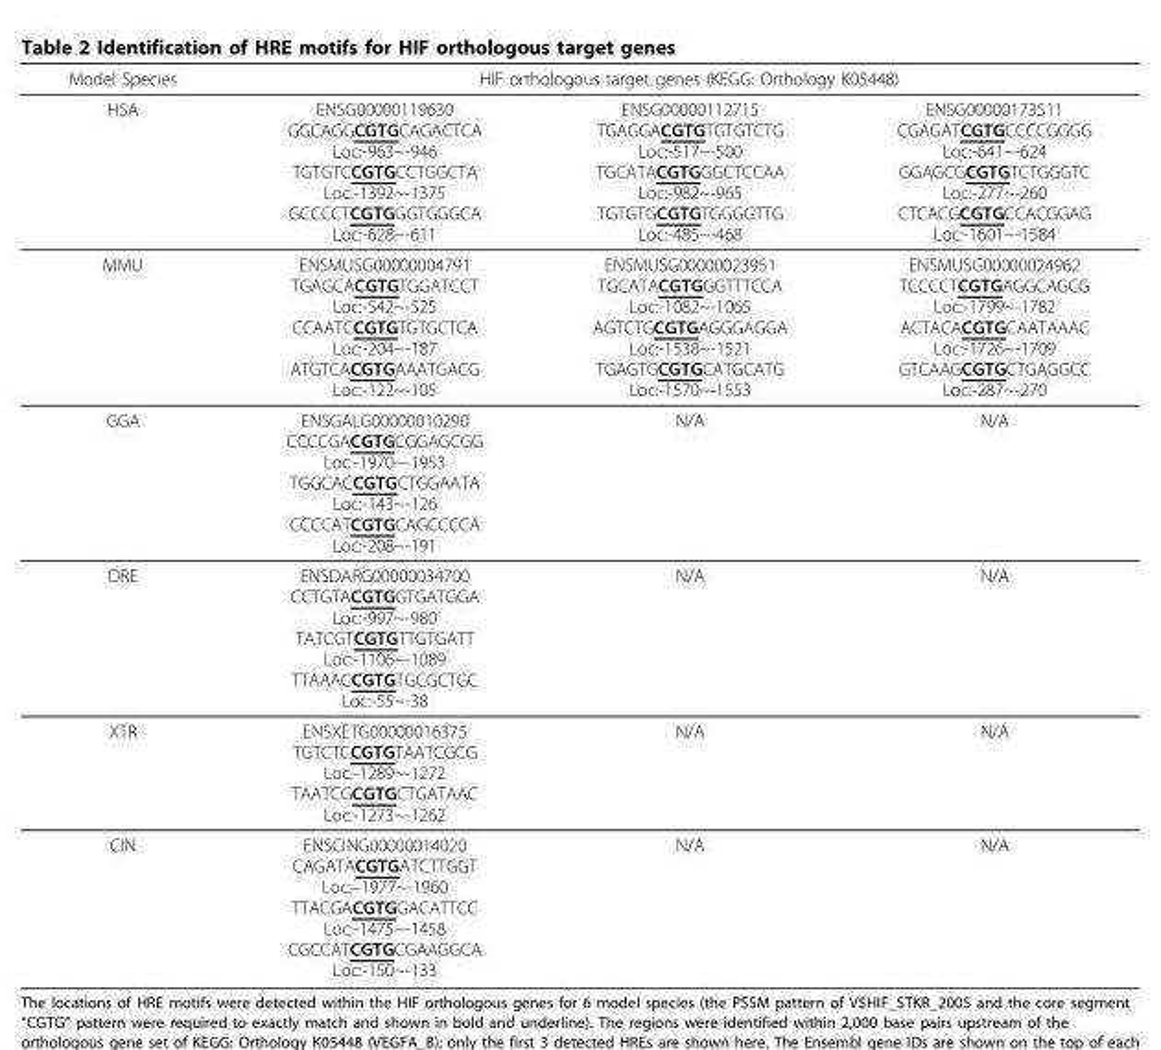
<table><thead><tr><td rowspan="2">Model Species HSA</td><td colspan="3">HIF orthologous target genes (KEGG: Orthology K05448)</td></tr><tr><td>ENSG00000119630 GGCAGGCGTGCAGACTCA Loc:-963~-946 TGTGTCCGTGCCTGGCTA Loc:-1392~-1375 GCCCCTCGTGGGTGGGCA Loc:-628~-611</td><td>ENSG00000112715 TGAGGACGTGTGTGTCTG Loc:-517~-500 TGCATACGTGGGCTCCAA Loc:-982~-965 TGTGTGCGTGTGGGGTTG Loc:-485~-468</td><td>ENSG00000173511 CGAGATCGTGCCCCGGGG Loc:-641~-624 GGAGCGCGTGTCTGGGTC Loc:-277~-260 CTCACGCGTGCCACGGAG Loc:-1601~-1584</td></tr></thead><tbody><tr><td>MMU</td><td>ENSMUSG00000004791 TGAGCACGTGTGGATCCT Loc:-542~-525 CCAATCCGTGTGTGCTCA Loc:-204~-187 ATGTCACGTGAAATGACG Loc:-122~-105</td><td>ENSMUSG00000023951 TGCATACGTGGGTTTCCA Loc:-1082~-1065 AGTCTGCGTGAGGGAGGA Loc:-1538~-1521 TGAGTGCGTGCATGCATG Loc:-1570~-1553</td><td>ENSMUSG00000024962 TCCCCTCGTGAGGCAGCG Loc:-1799~-1782 ACTACACGTGCAATAAAC Loc:-1726~-1709 GTCAAGCGTGCTGAGGCC Loc:-287~-270</td></tr><tr><td>GGA</td><td>ENSGALG00000010290 CCCCGACGTGCGGAGCGG Loc:-1970~-1953 TGGCACCGTGCTGGAATA Loc:-143~-126 CCCCATCGTGCAGCCCCA Loc:-208~-191</td><td>N/A</td><td>N/A</td></tr><tr><td>DRE</td><td>ENSDARG00000034700 CCTGTACGTGGTGATGGA Loc:-997~-980 TATCGTCGTGTTGTGATT Loc:-1106~-1089 TTAAACCGTGTGCGCTGC Loc:-55~-38</td><td>N/A</td><td>N/A</td></tr><tr><td>XTR</td><td>ENSXETG00000016375 TGTCTCCGTGTAATCGCG Loc:-1289~-1272 TAATCGCGTGCTGATAAC Loc:-1273~-1262</td><td>N/A</td><td>N/A</td></tr><tr><td>CIN</td><td>ENSCING00000014020 CAGATACGTGATCTTGGT Loc:–1977~-1960 TTACGACGTGGACATTCC Loc:-1475~-1458 CGCCATCGTGCGAAGGCA Loc:-150~-133</td><td>N/A</td><td>N/A</td></tr></tbody></table>